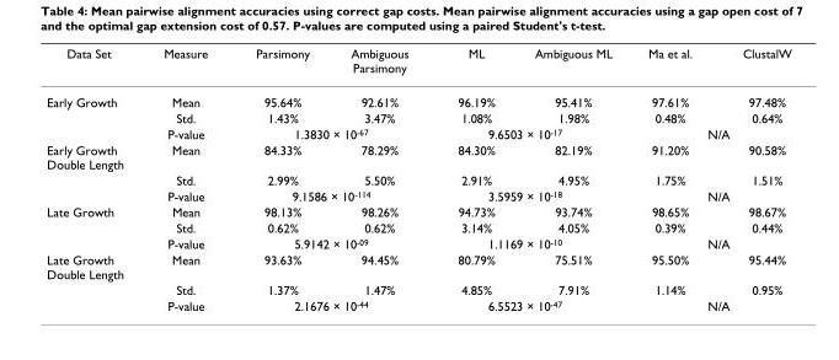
<table><thead><tr><td>Data Set</td><td>Measure</td><td>Parsimony</td><td>Ambiguous Parsimony</td><td>ML</td><td>Ambiguous ML</td><td>Ma et al.</td><td>ClustalW</td></tr></thead><tbody><tr><td rowspan="3">Early Growth</td><td>Mean</td><td>95.64%</td><td>92.61%</td><td>96.19%</td><td>95.41%</td><td>97.61%</td><td>97.48%</td></tr><tr><td>Std.</td><td>1.43%</td><td>3.47%</td><td>1.08%</td><td>1.98%</td><td>0.48%</td><td>0.64%</td></tr><tr><td>P-value</td><td colspan="2">1.3830 × 10<sup>-67</sup></td><td colspan="2">9.6503 × 10<sup>-17</sup></td><td colspan="2">N/A</td></tr><tr><td rowspan="3">Early Growth Double Length</td><td>Mean</td><td>84.33%</td><td>78.29%</td><td>84.30%</td><td>82.19%</td><td>91.20%</td><td>90.58%</td></tr><tr><td>Std.</td><td>2.99%</td><td>5.50%</td><td>2.91%</td><td>4.95%</td><td>1.75%</td><td>1.51%</td></tr><tr><td>P-value</td><td colspan="2">9.1586 × 10<sup>-114</sup></td><td colspan="2">3.5959 × 10<sup>-18</sup></td><td colspan="2">N/A</td></tr><tr><td rowspan="3">Late Growth</td><td>Mean</td><td>98.13%</td><td>98.26%</td><td>94.73%</td><td>93.74%</td><td>98.65%</td><td>98.67%</td></tr><tr><td>Std.</td><td>0.62%</td><td>0.62%</td><td>3.14%</td><td>4.05%</td><td>0.39%</td><td>0.44%</td></tr><tr><td>P-value</td><td colspan="2">5.9142 × 10<sup>-09</sup></td><td colspan="2">1.1169 × 10<sup>-10</sup></td><td colspan="2">N/A</td></tr><tr><td rowspan="3">Late Growth Double Length</td><td>Mean</td><td>93.63%</td><td>94.45%</td><td>80.79%</td><td>75.51%</td><td>95.50%</td><td>95.44%</td></tr><tr><td>Std.</td><td>1.37%</td><td>1.47%</td><td>4.85%</td><td>7.91%</td><td>1.14%</td><td>0.95%</td></tr><tr><td>P-value</td><td colspan="2">2.1676 × 10<sup>-44</sup></td><td colspan="2">6.5523 × 10<sup>-47</sup></td><td colspan="2">N/A</td></tr></tbody></table>